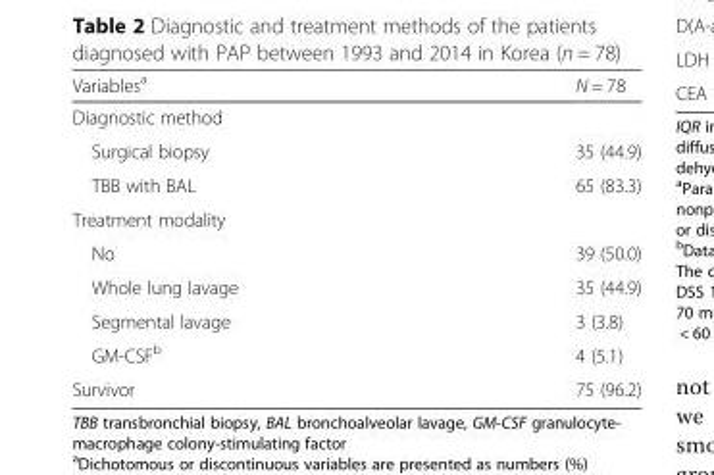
<table><thead><tr><td>Variables<sup>a</sup></td><td>N = 78</td></tr></thead><tbody><tr><td colspan="2">Diagnostic method</td></tr><tr><td>Surgical biopsy</td><td>35 (44.9)</td></tr><tr><td>TBB with BAL</td><td>65 (83.3)</td></tr><tr><td colspan="2">Treatment modality</td></tr><tr><td>No</td><td>39 (50.0)</td></tr><tr><td>Whole lung lavage</td><td>35 (44.9)</td></tr><tr><td>Segmental lavage</td><td>3 (3.8)</td></tr><tr><td>GM-CSF<sup>b</sup></td><td>4 (5.1)</td></tr><tr><td>Survivor</td><td>75 (96.2)</td></tr></tbody></table>